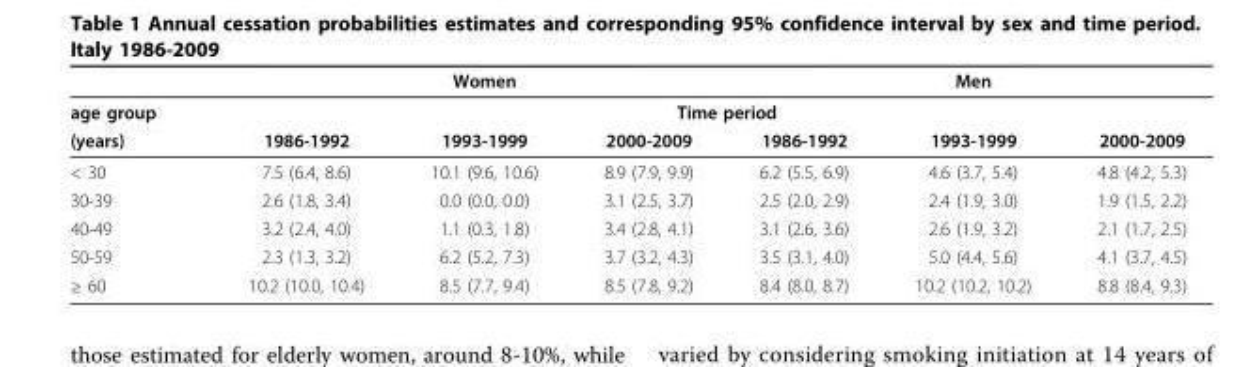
<table><thead><tr><td></td><td></td><td>Women</td><td></td><td></td><td>Men</td><td></td></tr></thead><tbody><tr><td>age group</td><td></td><td></td><td colspan="2">Time period</td><td></td><td></td></tr><tr><td>(years)</td><td>1986-1992</td><td>1993-1999</td><td>2000-2009</td><td>1986-1992</td><td>1993-1999</td><td>2000-2009</td></tr><tr><td>&lt; 30</td><td>7.5 (6.4, 8.6)</td><td>10.1 (9.6, 10.6)</td><td>8.9 (7.9, 9.9)</td><td>6.2 (5.5, 6.9)</td><td>4.6 (3.7, 5.4)</td><td>4.8 (4.2, 5.3)</td></tr><tr><td>30-39</td><td>2.6 (1.8, 3.4)</td><td>0.0 (0.0, 0.0)</td><td>3.1 (2.5, 3.7)</td><td>2.5 (2.0, 2.9)</td><td>2.4 (1.9, 3.0)</td><td>1.9 (1.5, 2.2)</td></tr><tr><td>40-49</td><td>3.2 (2.4, 4.0)</td><td>1.1 (0.3, 1.8)</td><td>3.4 (2.8, 4.1)</td><td>3.1 (2.6, 3.6)</td><td>2.6 (1.9, 3.2)</td><td>2.1 (1.7, 2.5)</td></tr><tr><td>50-59</td><td>2.3 (1.3, 3.2)</td><td>6.2 (5.2, 7.3)</td><td>3.7 (3.2, 4.3)</td><td>3.5 (3.1, 4.0)</td><td>5.0 (4.4, 5.6)</td><td>4.1 (3.7, 4.5)</td></tr><tr><td>≥ 60</td><td>10.2 (10.0, 10.4)</td><td>8.5 (7.7, 9.4)</td><td>8.5 (7.8, 9.2)</td><td>8.4 (8.0, 8.7)</td><td>10.2 (10.2, 10.2)</td><td>8.8 (8.4, 9.3)</td></tr></tbody></table>